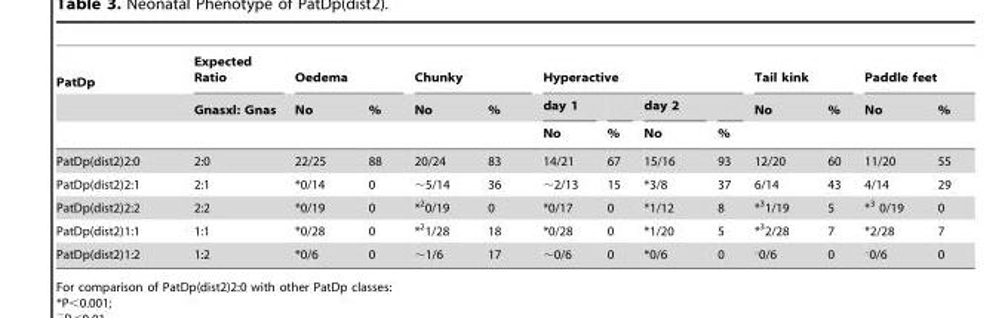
<table><thead><tr><td rowspan="3">PatDp</td><td rowspan="3">Expected Ratio Gnasxl: Gnas</td><td colspan="2">Oedema</td><td colspan="2">Chunky</td><td colspan="4">Hyperactive</td><td colspan="2">Tail kink</td><td colspan="2">Paddle feet</td></tr><tr><td rowspan="2">No</td><td rowspan="2">%</td><td rowspan="2">No</td><td rowspan="2">%</td><td rowspan="2">day 1 No</td><td rowspan="2">%</td><td rowspan="2">day 2 No</td><td rowspan="2">%</td><td rowspan="2">No</td><td rowspan="2">%</td><td rowspan="2">No</td><td rowspan="2">%</td></tr><tr></tr></thead><tbody><tr><td>PatDp(dist2)2:0</td><td>2:0</td><td>22/25</td><td>88</td><td>20/24</td><td>83</td><td>14/21</td><td>67</td><td>15/16</td><td>93</td><td>12/20</td><td>60</td><td>11/20</td><td>55</td></tr><tr><td>PatDp(dist2)2:1</td><td>2:1</td><td>*0/14</td><td>0</td><td>∼5/14</td><td>36</td><td>∼2/13</td><td>15</td><td>*3/8</td><td>37</td><td>6/14</td><td>43</td><td>4/14</td><td>29</td></tr><tr><td>PatDp(dist2)2:2</td><td>2:2</td><td>*0/19</td><td>0</td><td>*<sup>2</sup>0/19</td><td>0</td><td>*0/17</td><td>0</td><td>*1/12</td><td>8</td><td>*<sup>3</sup>1/19</td><td>5</td><td>*<sup>3</sup> 0/19</td><td>0</td></tr><tr><td>PatDp(dist2)1:1</td><td>1:1</td><td>*0/28</td><td>0</td><td>*<sup>2</sup>1/28</td><td>18</td><td>*0/28</td><td>0</td><td>*1/20</td><td>5</td><td>*<sup>3</sup>2/28</td><td>7</td><td>*2/28</td><td>7</td></tr><tr><td>PatDp(dist2)1:2</td><td>1:2</td><td>*0/6</td><td>0</td><td>∼1/6</td><td>17</td><td>∼0/6</td><td>0</td><td>*0/6</td><td>0</td><td>‘0/6</td><td>0</td><td>‘0/6</td><td>0</td></tr></tbody></table>